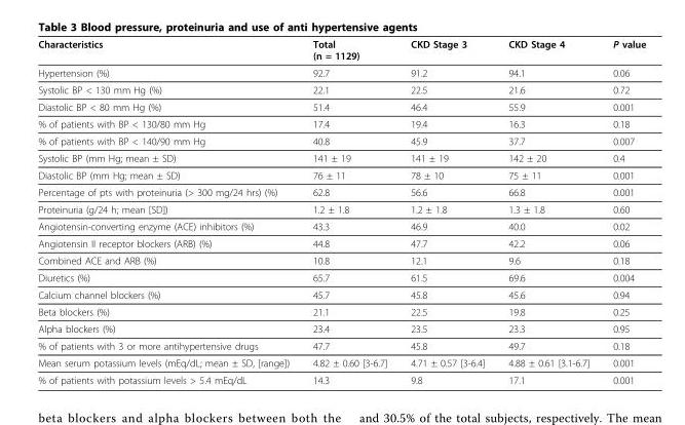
<table><thead><tr><td>Characteristics</td><td>Total (n = 1129)</td><td>CKD Stage 3</td><td>CKD Stage 4</td><td>P value</td></tr></thead><tbody><tr><td>Hypertension (%)</td><td>92.7</td><td>91.2</td><td>94.1</td><td>0.06</td></tr><tr><td>Systolic BP &lt; 130 mm Hg (%)</td><td>22.1</td><td>22.5</td><td>21.6</td><td>0.72</td></tr><tr><td>Diastolic BP &lt; 80 mm Hg (%)</td><td>51.4</td><td>46.4</td><td>55.9</td><td>0.001</td></tr><tr><td>% of patients with BP &lt; 130/80 mm Hg</td><td>17.4</td><td>19.4</td><td>16.3</td><td>0.18</td></tr><tr><td>% of patients with BP &lt; 140/90 mm Hg</td><td>40.8</td><td>45.9</td><td>37.7</td><td>0.007</td></tr><tr><td>Systolic BP (mm Hg; mean ± SD)</td><td>141 ± 19</td><td>141 ± 19</td><td>142 ± 20</td><td>0.4</td></tr><tr><td>Diastolic BP (mm Hg; mean ± SD)</td><td>76 ± 11</td><td>78 ± 10</td><td>75 ± 11</td><td>0.001</td></tr><tr><td>Percentage of pts with proteinuria (&gt; 300 mg/24 hrs) (%)</td><td>62.8</td><td>56.6</td><td>66.8</td><td>0.001</td></tr><tr><td>Proteinuria (g/24 h; mean [SD])</td><td>1.2 ± 1.8</td><td>1.2 ± 1.8</td><td>1.3 ± 1.8</td><td>0.60</td></tr><tr><td>Angiotensin-converting enzyme (ACE) inhibitors (%)</td><td>43.3</td><td>46.9</td><td>40.0</td><td>0.02</td></tr><tr><td>Angiotensin II receptor blockers (ARB) (%)</td><td>44.8</td><td>47.7</td><td>42.2</td><td>0.06</td></tr><tr><td>Combined ACE and ARB (%)</td><td>10.8</td><td>12.1</td><td>9.6</td><td>0.18</td></tr><tr><td>Diuretics (%)</td><td>65.7</td><td>61.5</td><td>69.6</td><td>0.004</td></tr><tr><td>Calcium channel blockers (%)</td><td>45.7</td><td>45.8</td><td>45.6</td><td>0.94</td></tr><tr><td>Beta blockers (%)</td><td>21.1</td><td>22.5</td><td>19.8</td><td>0.25</td></tr><tr><td>Alpha blockers (%)</td><td>23.4</td><td>23.5</td><td>23.3</td><td>0.95</td></tr><tr><td>% of patients with 3 or more antihypertensive drugs</td><td>47.7</td><td>45.8</td><td>49.7</td><td>0.18</td></tr><tr><td>Mean serum potassium levels (mEq/dL; mean ± SD, [range])</td><td>4.82 ± 0.60 [3-6.7]</td><td>4.71 ± 0.57 [3-6.4]</td><td>4.88 ± 0.61 [3.1-6.7]</td><td>0.001</td></tr><tr><td>% of patients with potassium levels &gt; 5.4 mEq/dL</td><td>14.3</td><td>9.8</td><td>17.1</td><td>0.001</td></tr></tbody></table>